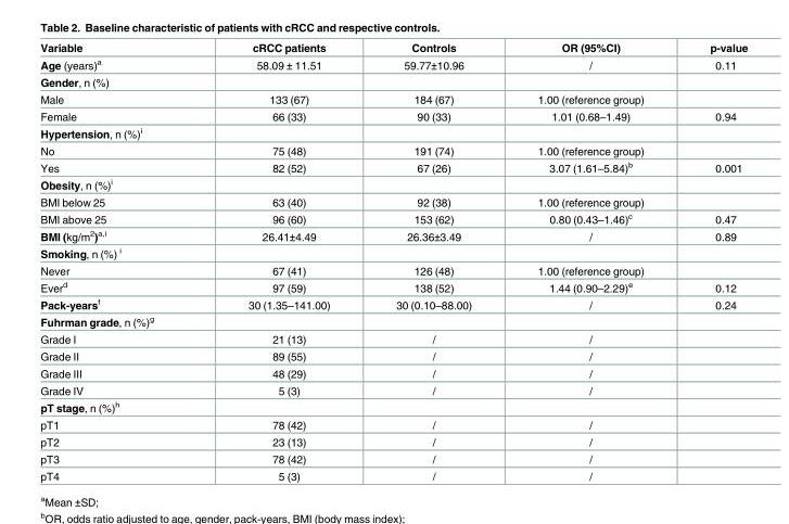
<table><thead><tr><td>Variable</td><td>cRCC patients</td><td>Controls</td><td>OR (95%CI)</td><td>p-value</td></tr></thead><tbody><tr><td>Age (years)a</td><td>58.09 ± 11.51</td><td>59.77±10.96</td><td>/</td><td>0.11</td></tr><tr><td colspan="5">Gender, n (%)</td></tr><tr><td>Male</td><td>133 (67)</td><td>184 (67)</td><td>1.00 (reference group)</td><td></td></tr><tr><td>Female</td><td>66 (33)</td><td>90 (33)</td><td>1.01 (0.68–1.49)</td><td>0.94</td></tr><tr><td colspan="5">Hypertension, n (%)i</td></tr><tr><td>No</td><td>75 (48)</td><td>191 (74)</td><td>1.00 (reference group)</td><td></td></tr><tr><td>Yes</td><td>82 (52)</td><td>67 (26)</td><td>3.07 (1.61–5.84)b</td><td>0.001</td></tr><tr><td colspan="5">Obesity, n (%)i</td></tr><tr><td>BMI below 25</td><td>63 (40)</td><td>92 (38)</td><td>1.00 (reference group)</td><td></td></tr><tr><td>BMI above 25</td><td>96 (60)</td><td>153 (62)</td><td>0.80 (0.43–1.46)c</td><td>0.47</td></tr><tr><td>BMI (kg/m2)a,i</td><td>26.41±4.49</td><td>26.36±3.49</td><td>/</td><td>0.89</td></tr><tr><td colspan="5">Smoking, n (%) i</td></tr><tr><td>Never</td><td>67 (41)</td><td>126 (48)</td><td>1.00 (reference group)</td><td></td></tr><tr><td>Everd</td><td>97 (59)</td><td>138 (52)</td><td>1.44 (0.90–2.29)e</td><td>0.12</td></tr><tr><td>Pack-yearsf</td><td>30 (1.35–141.00)</td><td>30 (0.10–88.00)</td><td>/</td><td>0.24</td></tr><tr><td colspan="5">Fuhrman grade, n (%)g</td></tr><tr><td>Grade I</td><td>21 (13)</td><td>/</td><td>/</td><td></td></tr><tr><td>Grade II</td><td>89 (55)</td><td>/</td><td>/</td><td></td></tr><tr><td>Grade III</td><td>48 (29)</td><td>/</td><td>/</td><td></td></tr><tr><td>Grade IV</td><td>5 (3)</td><td>/</td><td>/</td><td></td></tr><tr><td colspan="5">pT stage, n (%)h</td></tr><tr><td>pT1</td><td>78 (42)</td><td>/</td><td>/</td><td></td></tr><tr><td>pT2</td><td>23 (13)</td><td>/</td><td>/</td><td></td></tr><tr><td>pT3</td><td>78 (42)</td><td>/</td><td>/</td><td></td></tr><tr><td>pT4</td><td>5 (3)</td><td>/</td><td>/</td><td></td></tr></tbody></table>